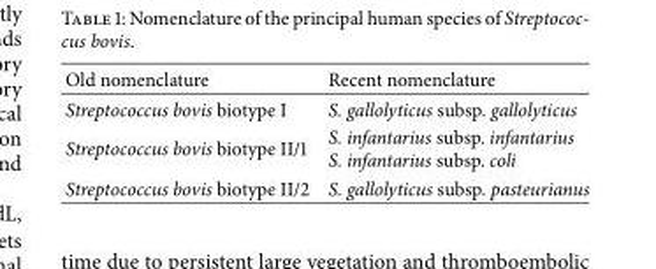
<table><thead><tr><td>Old nomenclature</td><td>Recent nomenclature</td></tr></thead><tbody><tr><td>Streptococcus bovis biotype I</td><td>S. gallolyticus subsp. gallolyticus</td></tr><tr><td>Streptococcus bovis biotype II/1</td><td>S. infantarius subsp. infantarius S. infantarius subsp. coli</td></tr><tr><td>Streptococcus bovis biotype II/2</td><td>S. gallolyticus subsp. pasteurianus</td></tr></tbody></table>